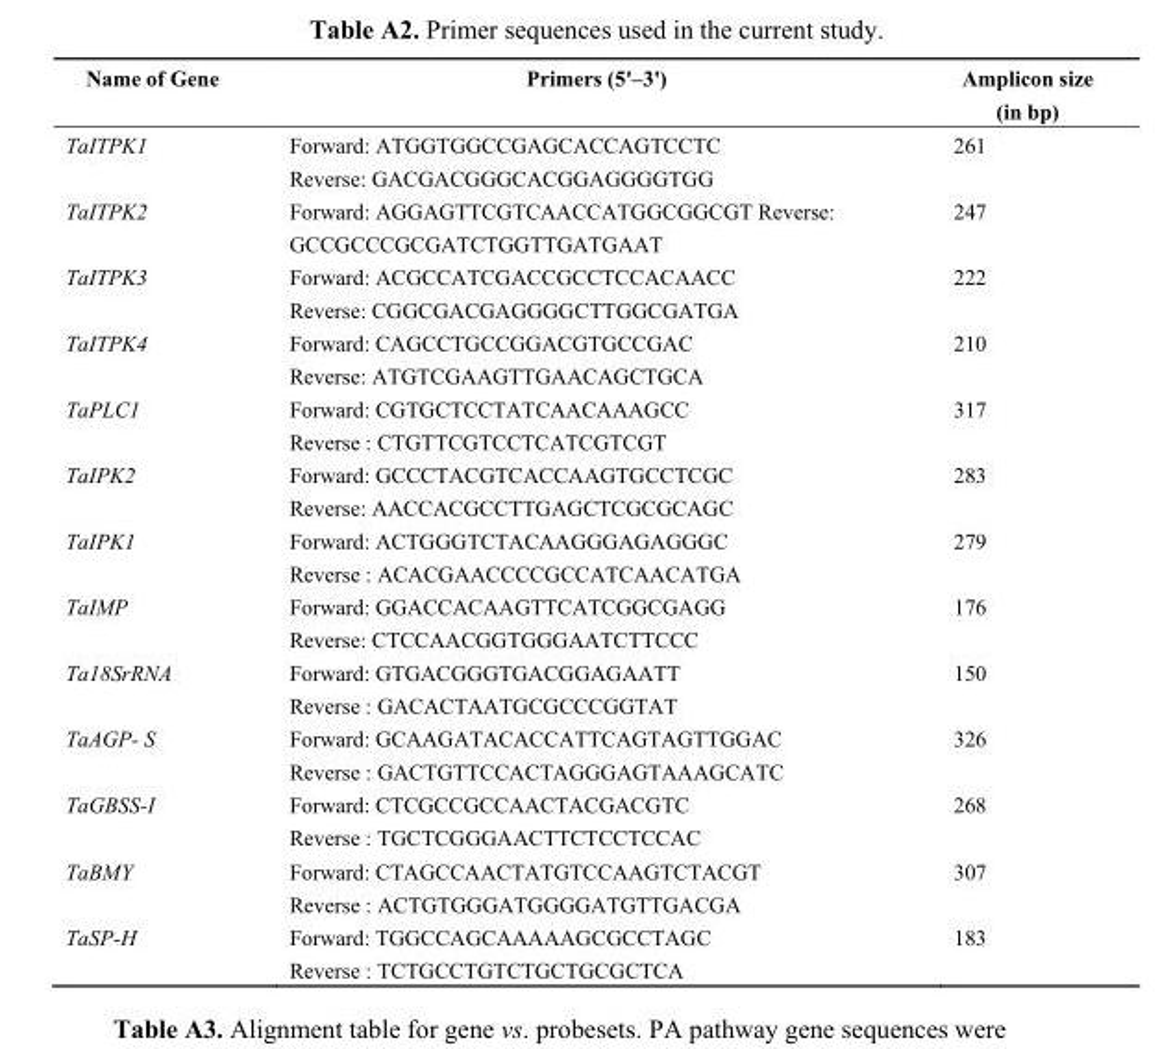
<table><thead><tr><td>Name of Gene</td><td>Primers (5&#x27;–3&#x27;)</td><td>Amplicon size (in bp)</td></tr></thead><tbody><tr><td>TaITPK1</td><td>Forward: ATGGTGGCCGAGCACCAGTCCTC Reverse: GACGACGGGCACGGAGGGGTGG</td><td>261</td></tr><tr><td>TaITPK2</td><td>Forward: AGGAGTTCGTCAACCATGGCGGCGT Reverse: GCCGCCCGCGATCTGGTTGATGAAT</td><td>247</td></tr><tr><td>TaITPK3</td><td>Forward: ACGCCATCGACCGCCTCCACAACC Reverse: CGGCGACGAGGGGCTTGGCGATGA</td><td>222</td></tr><tr><td>TaITPK4</td><td>Forward: CAGCCTGCCGGACGTGCCGAC Reverse: ATGTCGAAGTTGAACAGCTGCA</td><td>210</td></tr><tr><td>TaPLC1</td><td>Forward: CGTGCTCCTATCAACAAAGCC Reverse : CTGTTCGTCCTCATCGTCGT</td><td>317</td></tr><tr><td>TaIPK2</td><td>Forward: GCCCTACGTCACCAAGTGCCTCGC Reverse: AACCACGCCTTGAGCTCGCGCAGC</td><td>283</td></tr><tr><td>TaIPK1</td><td>Forward: ACTGGGTCTACAAGGGAGAGGGC Reverse : ACACGAACCCCGCCATCAACATGA</td><td>279</td></tr><tr><td>TaIMP</td><td>Forward: GGACCACAAGTTCATCGGCGAGG Reverse: CTCCAACGGTGGGAATCTTCCC</td><td>176</td></tr><tr><td>Ta18SrRNA</td><td>Forward: GTGACGGGTGACGGAGAATT Reverse : GACACTAATGCGCCCGGTAT</td><td>150</td></tr><tr><td>TaAGP- S</td><td>Forward: GCAAGATACACCATTCAGTAGTTGGAC Reverse : GACTGTTCCACTAGGGAGTAAAGCATC</td><td>326</td></tr><tr><td>TaGBSS-I</td><td>Forward: CTCGCCGCCAACTACGACGTC Reverse : TGCTCGGGAACTTCTCCTCCAC</td><td>268</td></tr><tr><td>TaBMY</td><td>Forward: CTAGCCAACTATGTCCAAGTCTACGT Reverse : ACTGTGGGATGGGGATGTTGACGA</td><td>307</td></tr><tr><td>TaSP-H</td><td>Forward: TGGCCAGCAAAAAGCGCCTAGC Reverse : TCTGCCTGTCTGCTGCGCTCA</td><td>183</td></tr></tbody></table>